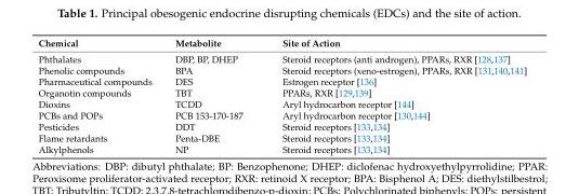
<table><thead><tr><td>Chemical</td><td>Metabolite</td><td>Site of Action</td></tr></thead><tbody><tr><td>Phthalates</td><td>DBP, BP, DHEP</td><td>Steroid receptors (anti androgen), PPARs, RXR [128,137]</td></tr><tr><td>Phenolic compounds</td><td>BPA</td><td>Steroid receptors (xeno-estrogen), PPARs, RXR [131,140,141]</td></tr><tr><td>Pharmaceutical compounds</td><td>DES</td><td>Estrogen receptor [136]</td></tr><tr><td>Organotin compounds</td><td>TBT</td><td>PPARs, RXR [129,139]</td></tr><tr><td>Dioxins</td><td>TCDD</td><td>Aryl hydrocarbon receptor [144]</td></tr><tr><td>PCBs and POPs</td><td>PCB 153-170-187</td><td>Aryl hydrocarbon receptor [130,144]</td></tr><tr><td>Pesticides</td><td>DDT</td><td>Steroid receptors [133,134]</td></tr><tr><td>Flame retardants</td><td>Penta-DBE</td><td>Steroid receptors [133,134]</td></tr><tr><td>Alkylphenols</td><td>NP</td><td>Steroid receptors [133,134]</td></tr></tbody></table>